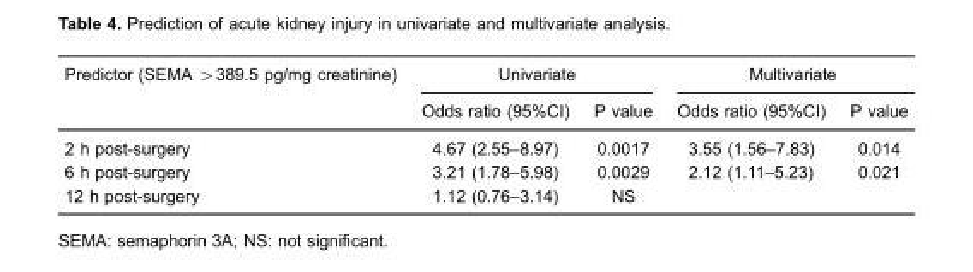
<table><thead><tr><td rowspan="2">Predictor (SEMA &gt;389.5 pg/mg creatinine)</td><td colspan="2">Univariate</td><td colspan="2">Multivariate</td></tr><tr><td>Odds ratio (95%CI)</td><td>P value</td><td>Odds ratio (95%CI)</td><td>P value</td></tr></thead><tbody><tr><td>2 h post-surgery</td><td>4.67 (2.55–8.97)</td><td>0.0017</td><td>3.55 (1.56–7.83)</td><td>0.014</td></tr><tr><td>6 h post-surgery</td><td>3.21 (1.78–5.98)</td><td>0.0029</td><td>2.12 (1.11–5.23)</td><td>0.021</td></tr><tr><td>12 h post-surgery</td><td>1.12 (0.76–3.14)</td><td>NS</td><td></td><td></td></tr></tbody></table>